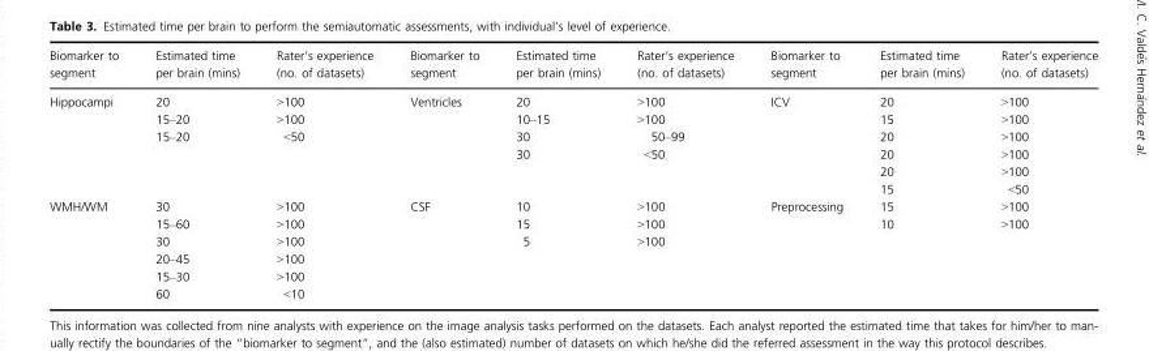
<table><thead><tr><td>Biomarker to segment</td><td>Estimated time per brain (mins)</td><td>Rater’s experience (no. of datasets)</td><td>Biomarker to segment</td><td>Estimated time per brain (mins)</td><td>Rater’s experience (no. of datasets)</td><td>Biomarker to segment</td><td>Estimated time per brain (mins)</td><td>Rater’s experience (no. of datasets)</td></tr></thead><tbody><tr><td rowspan="6">Hippocampi</td><td>20</td><td>&gt;100</td><td rowspan="6">Ventricles</td><td>20</td><td>&gt;100</td><td rowspan="6">ICV</td><td>20</td><td>&gt;100</td></tr><tr><td>15–20</td><td>&gt;100</td><td>10–15</td><td>&gt;100</td><td>15</td><td>&gt;100</td></tr><tr><td>15–20</td><td>&lt;50</td><td>30</td><td>50–99</td><td>20</td><td>&gt;100</td></tr><tr><td></td><td></td><td>30</td><td>&lt;50</td><td>20</td><td>&gt;100</td></tr><tr><td></td><td></td><td></td><td></td><td>20</td><td>&gt;100</td></tr><tr><td></td><td></td><td></td><td></td><td>15</td><td>&lt;50</td></tr><tr><td rowspan="6">WMH/WM</td><td>30</td><td>&gt;100</td><td rowspan="6">CSF</td><td>10</td><td>&gt;100</td><td rowspan="6">Preprocessing</td><td>15</td><td>&gt;100</td></tr><tr><td>15–60</td><td>&gt;100</td><td>15</td><td>&gt;100</td><td>10</td><td>&gt;100</td></tr><tr><td>30</td><td>&gt;100</td><td>5</td><td>&gt;100</td><td></td><td></td></tr><tr><td>20–45</td><td>&gt;100</td><td></td><td></td><td></td><td></td></tr><tr><td>15–30</td><td>&gt;100</td><td></td><td></td><td></td><td></td></tr><tr><td>60</td><td>&lt;10</td><td></td><td></td><td></td><td></td></tr></tbody></table>